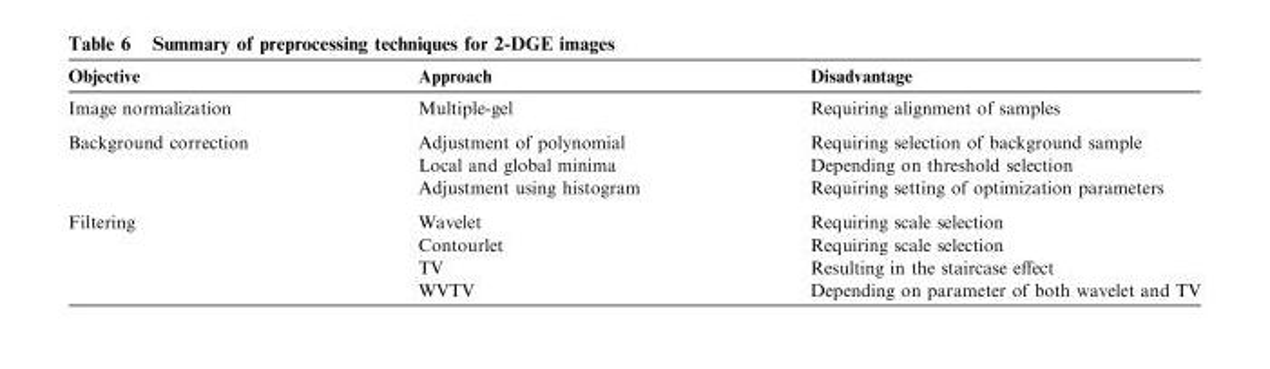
<table><thead><tr><td>Objective</td><td>Approach</td><td>Disadvantage</td></tr></thead><tbody><tr><td>Image normalization</td><td>Multiple-gel</td><td>Requiring alignment of samples</td></tr><tr><td rowspan="3">Background correction</td><td>Adjustment of polynomial</td><td>Requiring selection of background sample</td></tr><tr><td>Local and global minima</td><td>Depending on threshold selection</td></tr><tr><td>Adjustment using histogram</td><td>Requiring setting of optimization parameters</td></tr><tr><td rowspan="4">Filtering</td><td>Wavelet</td><td>Requiring scale selection</td></tr><tr><td>Contourlet</td><td>Requiring scale selection</td></tr><tr><td>TV</td><td>Resulting in the staircase effect</td></tr><tr><td>WVTV</td><td>Depending on parameter of both wavelet and TV</td></tr></tbody></table>